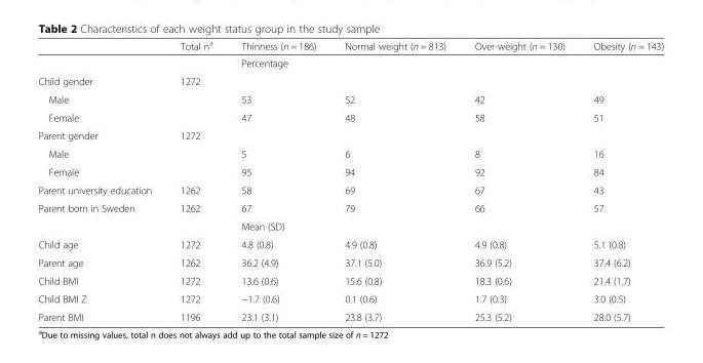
<table><thead><tr><td></td><td>Total n<sup>a</sup></td><td>Thinness (n = 186)</td><td>Normal weight (n = 813)</td><td>Over-weight (n = 130)</td><td>Obesity (n = 143)</td></tr></thead><tbody><tr><td></td><td></td><td colspan="4">Percentage</td></tr><tr><td>Child gender</td><td>1272</td><td></td><td></td><td></td><td></td></tr><tr><td>Male</td><td></td><td>53</td><td>52</td><td>42</td><td>49</td></tr><tr><td>Female</td><td></td><td>47</td><td>48</td><td>58</td><td>51</td></tr><tr><td>Parent gender</td><td>1272</td><td></td><td></td><td></td><td></td></tr><tr><td>Male</td><td></td><td>5</td><td>6</td><td>8</td><td>16</td></tr><tr><td>Female</td><td></td><td>95</td><td>94</td><td>92</td><td>84</td></tr><tr><td>Parent university education</td><td>1262</td><td>58</td><td>69</td><td>67</td><td>43</td></tr><tr><td rowspan="2">Parent born in Sweden</td><td>1262</td><td>67</td><td>79</td><td>66</td><td>57</td></tr><tr><td></td><td colspan="4">Mean (SD)</td></tr><tr><td>Child age</td><td>1272</td><td>4.8 (0.8)</td><td>4.9 (0.8)</td><td>4.9 (0.8)</td><td>5.1 (0.8)</td></tr><tr><td>Parent age</td><td>1262</td><td>36.2 (4.9)</td><td>37.1 (5.0)</td><td>36.9 (5.2)</td><td>37.4 (6.2)</td></tr><tr><td>Child BMI</td><td>1272</td><td>13.6 (0.6)</td><td>15.6 (0.8)</td><td>18.3 (0.6)</td><td>21.4 (1.7)</td></tr><tr><td>Child BMI Z</td><td>1272</td><td>−1.7 (0.6)</td><td>0.1 (0.6)</td><td>1.7 (0.3)</td><td>3.0 (0.5)</td></tr><tr><td>Parent BMI</td><td>1196</td><td>23.1 (3.1)</td><td>23.8 (3.7)</td><td>25.3 (5.2)</td><td>28.0 (5.7)</td></tr></tbody></table>